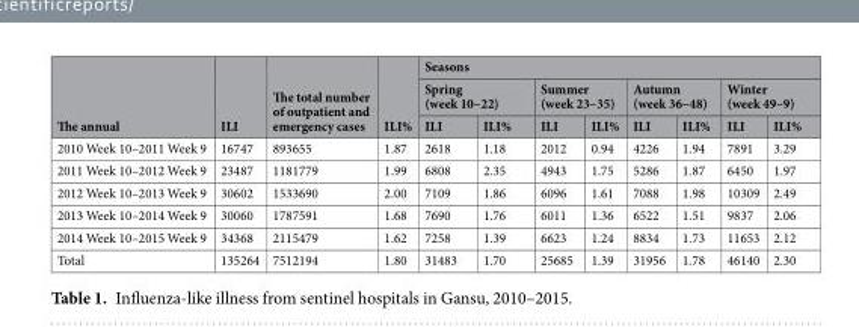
<table><thead><tr><td rowspan="3">The annual</td><td rowspan="3">ILI</td><td rowspan="3">The total number of outpatient and emergency cases</td><td rowspan="3">ILI%</td><td colspan="8">Seasons</td></tr><tr><td colspan="2">Spring (week 10–22)</td><td colspan="2">Summer (week 23–35)</td><td colspan="2">Autumn (week 36–48)</td><td colspan="2">Winter (week 49–9)</td></tr><tr><td>ILI</td><td>ILI%</td><td>ILI</td><td>ILI%</td><td>ILI</td><td>ILI%</td><td>ILI</td><td>ILI%</td></tr></thead><tbody><tr><td>2010 Week 10–2011 Week 9</td><td>16747</td><td>893655</td><td>1.87</td><td>2618</td><td>1.18</td><td>2012</td><td>0.94</td><td>4226</td><td>1.94</td><td>7891</td><td>3.29</td></tr><tr><td>2011 Week 10–2012 Week 9</td><td>23487</td><td>1181779</td><td>1.99</td><td>6808</td><td>2.35</td><td>4943</td><td>1.75</td><td>5286</td><td>1.87</td><td>6450</td><td>1.97</td></tr><tr><td>2012 Week 10–2013 Week 9</td><td>30602</td><td>1533690</td><td>2.00</td><td>7109</td><td>1.86</td><td>6096</td><td>1.61</td><td>7088</td><td>1.98</td><td>10309</td><td>2.49</td></tr><tr><td>2013 Week 10–2014 Week 9</td><td>30060</td><td>1787591</td><td>1.68</td><td>7690</td><td>1.76</td><td>6011</td><td>1.36</td><td>6522</td><td>1.51</td><td>9837</td><td>2.06</td></tr><tr><td>2014 Week 10–2015 Week 9</td><td>34368</td><td>2115479</td><td>1.62</td><td>7258</td><td>1.39</td><td>6623</td><td>1.24</td><td>8834</td><td>1.73</td><td>11653</td><td>2.12</td></tr><tr><td>Total</td><td>135264</td><td>7512194</td><td>1.80</td><td>31483</td><td>1.70</td><td>25685</td><td>1.39</td><td>31956</td><td>1.78</td><td>46140</td><td>2.30</td></tr></tbody></table>